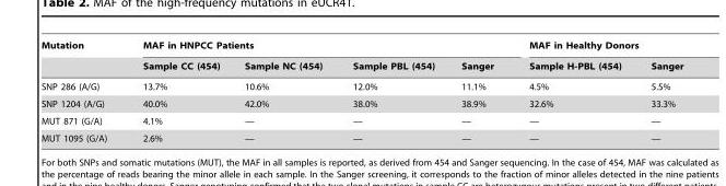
<table><thead><tr><td rowspan="2">Mutation</td><td colspan="4">MAF in HNPCC Patients</td><td colspan="2">MAF in Healthy Donors</td></tr><tr><td>Sample CC (454)</td><td>Sample NC (454)</td><td>Sample PBL (454)</td><td>Sanger</td><td>Sample H-PBL (454)</td><td>Sanger</td></tr></thead><tbody><tr><td>SNP 286 (A/G)</td><td>13.7%</td><td>10.6%</td><td>12.0%</td><td>11.1%</td><td>4.5%</td><td>5.5%</td></tr><tr><td>SNP 1204 (A/G)</td><td>40.0%</td><td>42.0%</td><td>38.0%</td><td>38.9%</td><td>32.6%</td><td>33.3%</td></tr><tr><td>MUT 871 (G/A)</td><td>4.1%</td><td>—</td><td>—</td><td>—</td><td>—</td><td>—</td></tr><tr><td>MUT 1095 (G/A)</td><td>2.6%</td><td>—</td><td>—</td><td>—</td><td>—</td><td>—</td></tr></tbody></table>